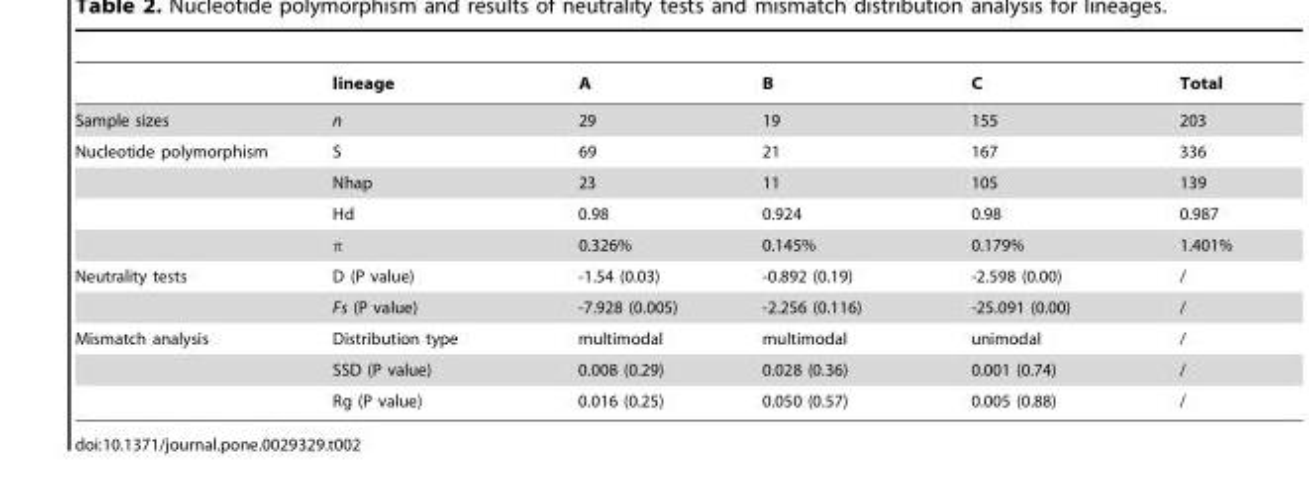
<table><thead><tr><td></td><td>lineage</td><td>A</td><td>B</td><td>C</td><td>Total</td></tr></thead><tbody><tr><td>Sample sizes</td><td>n</td><td>29</td><td>19</td><td>155</td><td>203</td></tr><tr><td rowspan="4">Nucleotide polymorphism</td><td>S</td><td>69</td><td>21</td><td>167</td><td>336</td></tr><tr><td>Nhap</td><td>23</td><td>11</td><td>105</td><td>139</td></tr><tr><td>Hd</td><td>0.98</td><td>0.924</td><td>0.98</td><td>0.987</td></tr><tr><td>π</td><td>0.326%</td><td>0.145%</td><td>0.179%</td><td>1.401%</td></tr><tr><td rowspan="2">Neutrality tests</td><td>D (P value)</td><td>-1.54 (0.03)</td><td>-0.892 (0.19)</td><td>-2.598 (0.00)</td><td>/</td></tr><tr><td>Fs (P value)</td><td>-7.928 (0.005)</td><td>-2.256 (0.116)</td><td>-25.091 (0.00)</td><td>/</td></tr><tr><td rowspan="3">Mismatch analysis</td><td>Distribution type</td><td>multimodal</td><td>multimodal</td><td>unimodal</td><td>/</td></tr><tr><td>SSD (P value)</td><td>0.008 (0.29)</td><td>0.028 (0.36)</td><td>0.001 (0.74)</td><td>/</td></tr><tr><td>Rg (P value)</td><td>0.016 (0.25)</td><td>0.050 (0.57)</td><td>0.005 (0.88)</td><td>/</td></tr></tbody></table>